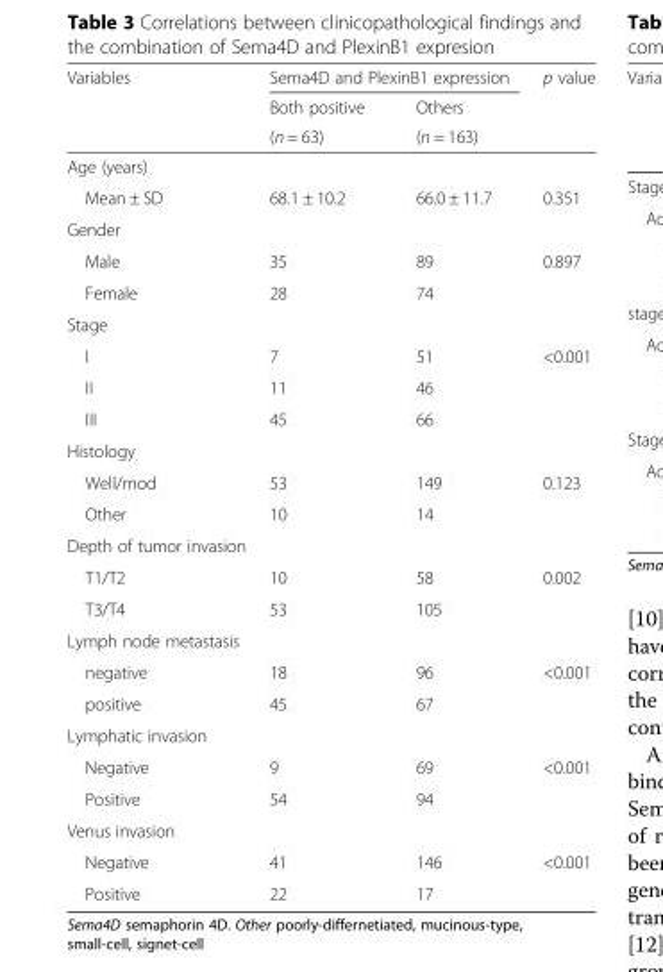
<table><thead><tr><td rowspan="3">Variables</td><td colspan="2">Sema4D and PlexinB1 expression</td><td rowspan="3">p value</td></tr><tr><td rowspan="2">Both positive (n = 63)</td><td rowspan="2">Others (n = 163)</td></tr><tr></tr></thead><tbody><tr><td colspan="4">Age (years)</td></tr><tr><td>Mean ± SD</td><td>68.1 ± 10.2</td><td>66.0 ± 11.7</td><td>0.351</td></tr><tr><td colspan="4">Gender</td></tr><tr><td>Male</td><td>35</td><td>89</td><td rowspan="2">0.897</td></tr><tr><td>Female</td><td>28</td><td>74</td></tr><tr><td colspan="4">Stage</td></tr><tr><td>I</td><td>7</td><td>51</td><td rowspan="2">&lt;0.001</td></tr><tr><td>II</td><td>11</td><td>46</td></tr><tr><td>III</td><td>45</td><td>66</td><td></td></tr><tr><td colspan="4">Histology</td></tr><tr><td>Well/mod</td><td>53</td><td>149</td><td rowspan="2">0.123</td></tr><tr><td>Other</td><td>10</td><td>14</td></tr><tr><td colspan="4">Depth of tumor invasion</td></tr><tr><td>T1/T2</td><td>10</td><td>58</td><td rowspan="2">0.002</td></tr><tr><td>T3/T4</td><td>53</td><td>105</td></tr><tr><td colspan="4">Lymph node metastasis</td></tr><tr><td>negative</td><td>18</td><td>96</td><td rowspan="2">&lt;0.001</td></tr><tr><td>positive</td><td>45</td><td>67</td></tr><tr><td colspan="4">Lymphatic invasion</td></tr><tr><td>Negative</td><td>9</td><td>69</td><td rowspan="2">&lt;0.001</td></tr><tr><td>Positive</td><td>54</td><td>94</td></tr><tr><td colspan="4">Venus invasion</td></tr><tr><td>Negative</td><td>41</td><td>146</td><td rowspan="2">&lt;0.001</td></tr><tr><td>Positive</td><td>22</td><td>17</td></tr></tbody></table>